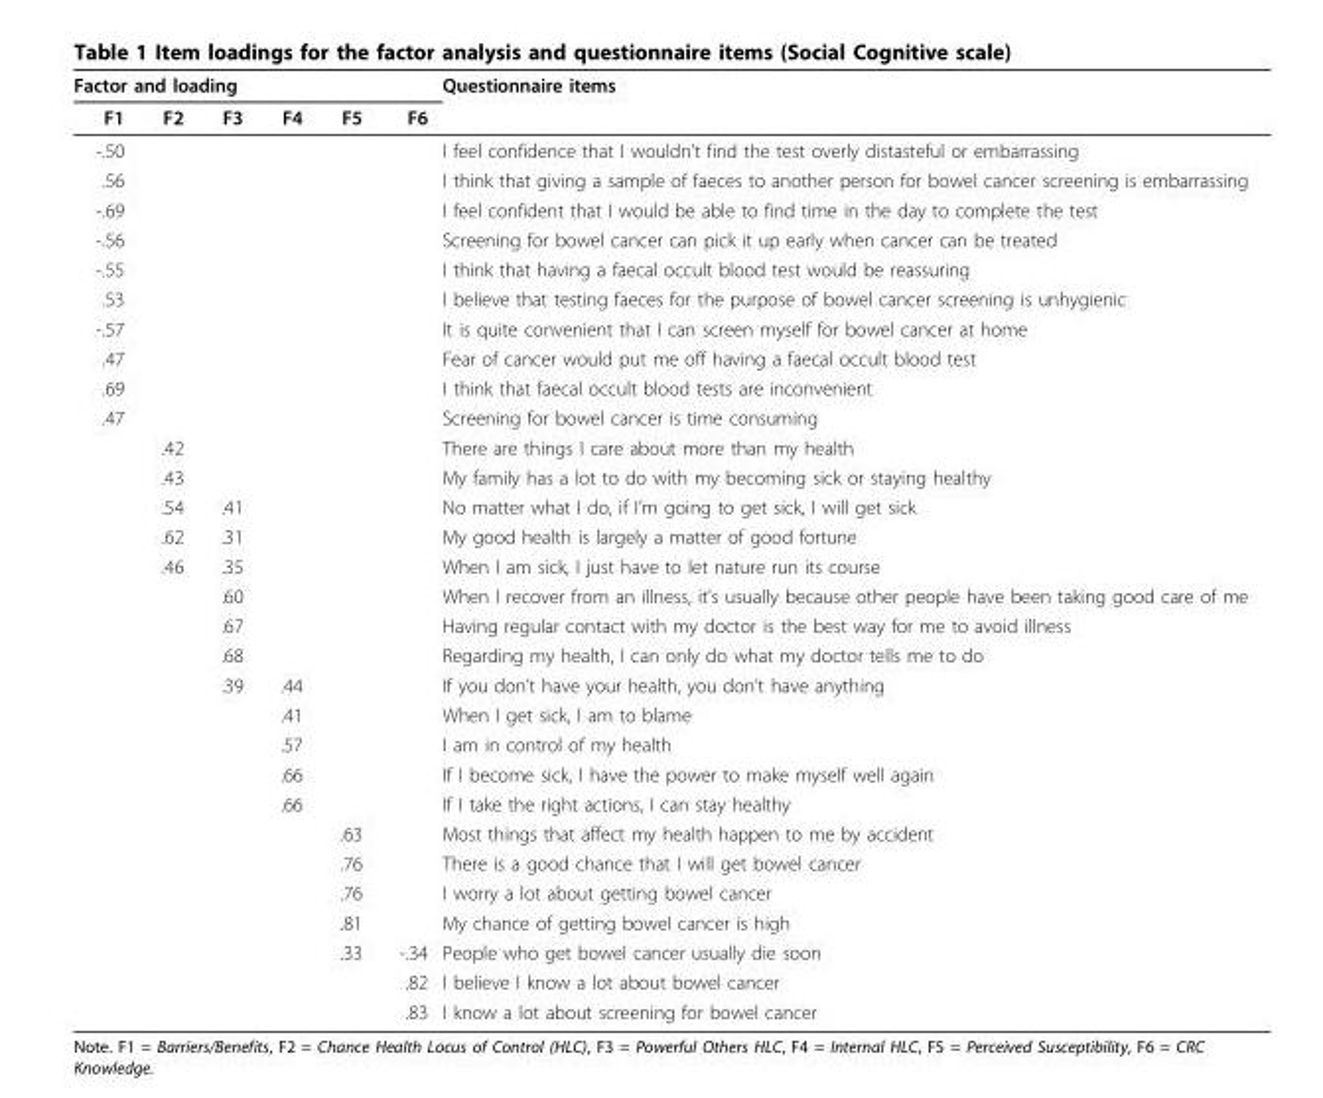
<table><thead><tr><td colspan="6">Factor and loading</td><td rowspan="2">Questionnaire items</td></tr><tr><td>F1</td><td>F2</td><td>F3</td><td>F4</td><td>F5</td><td>F6</td></tr></thead><tbody><tr><td>-.50</td><td></td><td></td><td></td><td></td><td></td><td>I feel confidence that I wouldn’t find the test overly distasteful or embarrassing</td></tr><tr><td>.56</td><td></td><td></td><td></td><td></td><td></td><td>I think that giving a sample of faeces to another person for bowel cancer screening is embarrassing</td></tr><tr><td>-.69</td><td></td><td></td><td></td><td></td><td></td><td>I feel confident that I would be able to find time in the day to complete the test</td></tr><tr><td>-.56</td><td></td><td></td><td></td><td></td><td></td><td>Screening for bowel cancer can pick it up early when cancer can be treated</td></tr><tr><td>-.55</td><td></td><td></td><td></td><td></td><td></td><td>I think that having a faecal occult blood test would be reassuring</td></tr><tr><td>.53</td><td></td><td></td><td></td><td></td><td></td><td>I believe that testing faeces for the purpose of bowel cancer screening is unhygienic</td></tr><tr><td>-.57</td><td></td><td></td><td></td><td></td><td></td><td>It is quite convenient that I can screen myself for bowel cancer at home</td></tr><tr><td>.47</td><td></td><td></td><td></td><td></td><td></td><td>Fear of cancer would put me off having a faecal occult blood test</td></tr><tr><td>.69</td><td></td><td></td><td></td><td></td><td></td><td>I think that faecal occult blood tests are inconvenient</td></tr><tr><td rowspan="21">.47</td><td></td><td></td><td></td><td></td><td></td><td>Screening for bowel cancer is time consuming</td></tr><tr><td>.42</td><td></td><td></td><td></td><td></td><td>There are things I care about more than my health</td></tr><tr><td>.43</td><td></td><td></td><td></td><td></td><td>My family has a lot to do with my becoming sick or staying healthy</td></tr><tr><td>.54</td><td>.41</td><td></td><td></td><td></td><td>No matter what I do, if I’m going to get sick, I will get sick</td></tr><tr><td>.62</td><td>.31</td><td></td><td></td><td></td><td>My good health is largely a matter of good fortune</td></tr><tr><td>.46</td><td>.35</td><td></td><td></td><td></td><td>When I am sick, I just have to let nature run its course</td></tr><tr><td></td><td>.60</td><td></td><td></td><td></td><td>When I recover from an illness, it’s usually because other people have been taking good care of me</td></tr><tr><td></td><td>.67</td><td></td><td></td><td></td><td>Having regular contact with my doctor is the best way for me to avoid illness</td></tr><tr><td></td><td>.68</td><td></td><td></td><td></td><td>Regarding my health, I can only do what my doctor tells me to do</td></tr><tr><td></td><td>.39</td><td>.44</td><td></td><td></td><td>If you don’t have your health, you don’t have anything</td></tr><tr><td></td><td></td><td>.41</td><td></td><td></td><td>When I get sick, I am to blame</td></tr><tr><td></td><td></td><td>.57</td><td></td><td></td><td>I am in control of my health</td></tr><tr><td></td><td></td><td>.66</td><td></td><td></td><td>If I become sick, I have the power to make myself well again</td></tr><tr><td></td><td></td><td>.66</td><td></td><td></td><td>If I take the right actions, I can stay healthy</td></tr><tr><td></td><td></td><td></td><td>.63</td><td></td><td>Most things that affect my health happen to me by accident</td></tr><tr><td></td><td></td><td></td><td>.76</td><td></td><td>There is a good chance that I will get bowel cancer</td></tr><tr><td></td><td></td><td></td><td>.76</td><td></td><td>I worry a lot about getting bowel cancer</td></tr><tr><td></td><td></td><td></td><td>.81</td><td></td><td>My chance of getting bowel cancer is high</td></tr><tr><td></td><td></td><td></td><td>.33</td><td>-.34</td><td>People who get bowel cancer usually die soon</td></tr><tr><td></td><td></td><td></td><td></td><td>.82</td><td>I believe I know a lot about bowel cancer</td></tr><tr><td></td><td></td><td></td><td></td><td>.83</td><td>I know a lot about screening for bowel cancer</td></tr></tbody></table>